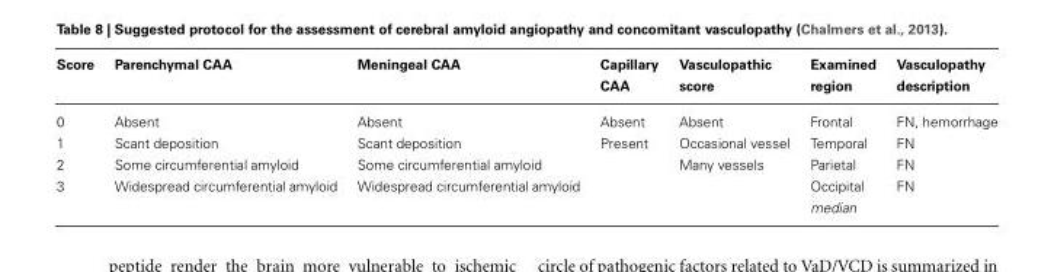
<table><thead><tr><td>Score</td><td>Parenchymal CAA</td><td>Meningeal CAA</td><td>Capillary CAA</td><td>Vasculopathic score</td><td>Examined region</td><td>Vasculopathy description</td></tr></thead><tbody><tr><td>0</td><td>Absent</td><td>Absent</td><td>Absent</td><td>Absent</td><td>Frontal</td><td>FN, hemorrhage</td></tr><tr><td>1</td><td>Scant deposition</td><td>Scant deposition</td><td>Present</td><td>Occasional vessel</td><td>Temporal</td><td>FN</td></tr><tr><td>2</td><td>Some circumferential amyloid</td><td>Some circumferential amyloid</td><td></td><td>Many vessels</td><td>Parietal</td><td>FN</td></tr><tr><td>3</td><td>Widespread circumferential amyloid</td><td>Widespread circumferential amyloid</td><td></td><td></td><td>Occipital median</td><td>FN</td></tr></tbody></table>